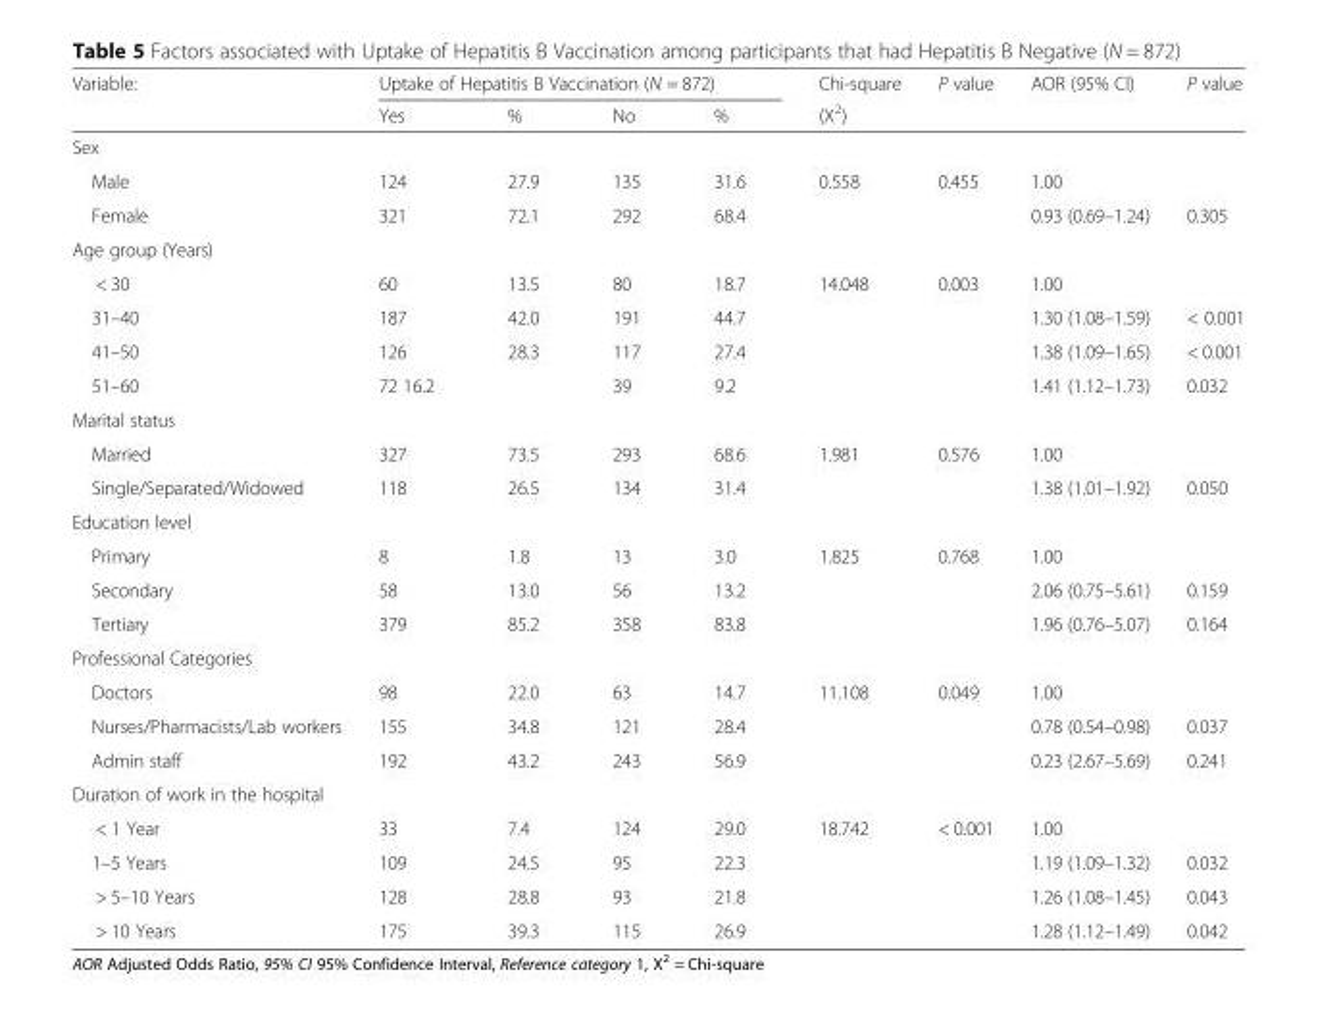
<table><thead><tr><td rowspan="2">Variable:</td><td colspan="4">Uptake of Hepatitis B Vaccination (N = 872)</td><td rowspan="2">Chi-square (X<sup>2</sup>)</td><td rowspan="2">P value</td><td rowspan="2">AOR (95% CI)</td><td rowspan="2">P value</td></tr><tr><td>Yes</td><td>%</td><td>No</td><td>%</td></tr></thead><tbody><tr><td colspan="9">Sex</td></tr><tr><td>Male</td><td>124</td><td>27.9</td><td>135</td><td>31.6</td><td>0.558</td><td>0.455</td><td>1.00</td><td></td></tr><tr><td>Female</td><td>321</td><td>72.1</td><td>292</td><td>68.4</td><td></td><td></td><td>0.93 (0.69–1.24)</td><td>0.305</td></tr><tr><td colspan="9">Age group (Years)</td></tr><tr><td>&lt; 30</td><td>60</td><td>13.5</td><td>80</td><td>18.7</td><td>14.048</td><td>0.003</td><td>1.00</td><td></td></tr><tr><td>31–40</td><td>187</td><td>42.0</td><td>191</td><td>44.7</td><td></td><td></td><td>1.30 (1.08–1.59)</td><td>&lt; 0.001</td></tr><tr><td>41–50</td><td>126</td><td>28.3</td><td>117</td><td>27.4</td><td></td><td></td><td>1.38 (1.09–1.65)</td><td>&lt; 0.001</td></tr><tr><td>51–60</td><td>72 16.2</td><td></td><td>39</td><td>9.2</td><td></td><td></td><td>1.41 (1.12–1.73)</td><td>0.032</td></tr><tr><td colspan="9">Marital status</td></tr><tr><td>Married</td><td>327</td><td>73.5</td><td>293</td><td>68.6</td><td>1.981</td><td>0.576</td><td>1.00</td><td></td></tr><tr><td>Single/Separated/Widowed</td><td>118</td><td>26.5</td><td>134</td><td>31.4</td><td></td><td></td><td>1.38 (1.01–1.92)</td><td>0.050</td></tr><tr><td colspan="9">Education level</td></tr><tr><td>Primary</td><td>8</td><td>1.8</td><td>13</td><td>3.0</td><td>1.825</td><td>0.768</td><td>1.00</td><td></td></tr><tr><td>Secondary</td><td>58</td><td>13.0</td><td>56</td><td>13.2</td><td></td><td></td><td>2.06 (0.75–5.61)</td><td>0.159</td></tr><tr><td>Tertiary</td><td>379</td><td>85.2</td><td>358</td><td>83.8</td><td></td><td></td><td>1.96 (0.76–5.07)</td><td>0.164</td></tr><tr><td colspan="9">Professional Categories</td></tr><tr><td>Doctors</td><td>98</td><td>22.0</td><td>63</td><td>14.7</td><td>11.108</td><td>0.049</td><td>1.00</td><td></td></tr><tr><td>Nurses/Pharmacists/Lab workers</td><td>155</td><td>34.8</td><td>121</td><td>28.4</td><td></td><td></td><td>0.78 (0.54–0.98)</td><td>0.037</td></tr><tr><td>Admin staff</td><td>192</td><td>43.2</td><td>243</td><td>56.9</td><td></td><td></td><td>0.23 (2.67–5.69)</td><td>0.241</td></tr><tr><td colspan="9">Duration of work in the hospital</td></tr><tr><td>&lt; 1 Year</td><td>33</td><td>7.4</td><td>124</td><td>29.0</td><td>18.742</td><td>&lt; 0.001</td><td>1.00</td><td></td></tr><tr><td>1–5 Years</td><td>109</td><td>24.5</td><td>95</td><td>22.3</td><td></td><td></td><td>1.19 (1.09–1.32)</td><td>0.032</td></tr><tr><td>&gt; 5–10 Years</td><td>128</td><td>28.8</td><td>93</td><td>21.8</td><td></td><td></td><td>1.26 (1.08–1.45)</td><td>0.043</td></tr><tr><td>&gt; 10 Years</td><td>175</td><td>39.3</td><td>115</td><td>26.9</td><td></td><td></td><td>1.28 (1.12–1.49)</td><td>0.042</td></tr></tbody></table>